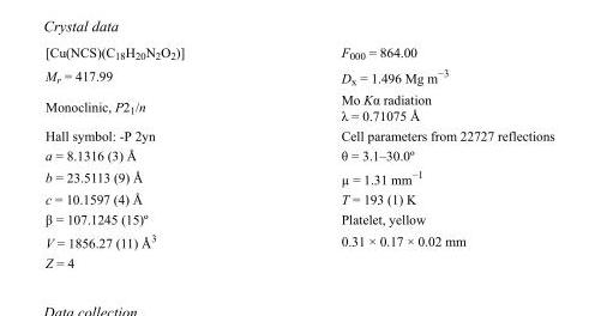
<table><tbody><tr><td>[Cu(NCS)(C<sub>18</sub>H<sub>20</sub>N<sub>2</sub>O<sub>2</sub>)]</td><td>F000 = 864.00</td></tr><tr><td>M<sub>r</sub> = 417.99</td><td>D<sub>x</sub> = 1.496 Mg m<sup>−3</sup></td></tr><tr><td>Monoclinic, P2<sub>1</sub>/n</td><td>Mo Kα radiation λ = 0.71075 Å</td></tr><tr><td>Hall symbol: -P 2yn</td><td>Cell parameters from 22727 reflections</td></tr><tr><td>a = 8.1316 (3) Å</td><td>θ = 3.1–30.0º</td></tr><tr><td>b = 23.5113 (9) Å</td><td>µ = 1.31 mm<sup>−1</sup></td></tr><tr><td>c = 10.1597 (4) Å</td><td>T = 193 (1) K</td></tr><tr><td>β = 107.1245 (15)º</td><td>Platelet, yellow</td></tr><tr><td>V = 1856.27 (11) Å<sup>3</sup></td><td>0.31 × 0.17 × 0.02 mm</td></tr><tr><td>Z = 4</td><td></td></tr></tbody></table>